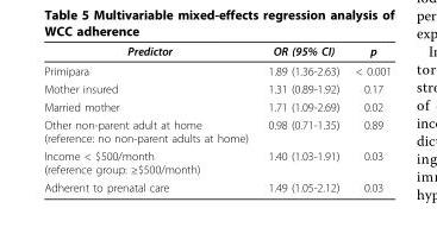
<table><thead><tr><td>Predictor</td><td>OR (95% CI)</td><td>p</td></tr></thead><tbody><tr><td>Primipara</td><td>1.89 (1.36-2.63)</td><td>&lt; 0.001</td></tr><tr><td>Mother insured</td><td>1.31 (0.89-1.92)</td><td>0.17</td></tr><tr><td>Married mother</td><td>1.71 (1.09-2.69)</td><td>0.02</td></tr><tr><td>Other non-parent adult at home (reference: no non-parent adults at home)</td><td>0.98 (0.71-1.35)</td><td>0.89</td></tr><tr><td>Income &lt; $500/month (reference group: ≥$500/month)</td><td>1.40 (1.03-1.91)</td><td>0.03</td></tr><tr><td>Adherent to prenatal care</td><td>1.49 (1.05-2.12)</td><td>0.03</td></tr></tbody></table>